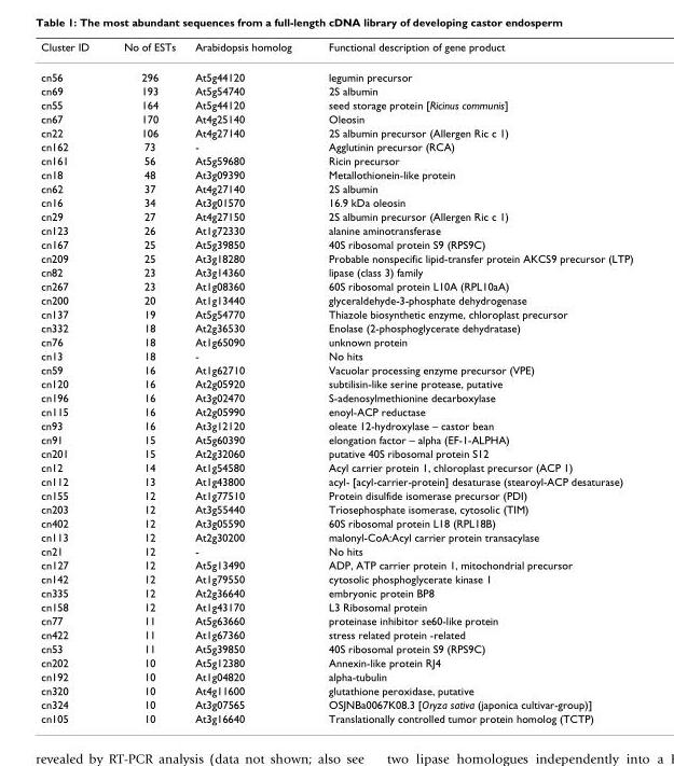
<table><thead><tr><td>Cluster ID</td><td>No of ESTs</td><td>Arabidopsis homolog</td><td>Functional description of gene product</td></tr></thead><tbody><tr><td>cn56</td><td>296</td><td>At5g44120</td><td>legumin precursor</td></tr><tr><td>cn69</td><td>193</td><td>At5g54740</td><td>2S albumin</td></tr><tr><td>cn55</td><td>164</td><td>At5g44120</td><td>seed storage protein [Ricinus communis]</td></tr><tr><td>cn67</td><td>170</td><td>At4g25140</td><td>Oleosin</td></tr><tr><td>cn22</td><td>106</td><td>At4g27140</td><td>2S albumin precursor (Allergen Ric c 1)</td></tr><tr><td>cn162</td><td>73</td><td>-</td><td>Agglutinin precursor (RCA)</td></tr><tr><td>cn161</td><td>56</td><td>At5g59680</td><td>Ricin precursor</td></tr><tr><td>cn18</td><td>48</td><td>At3g09390</td><td>Metallothionein-like protein</td></tr><tr><td>cn62</td><td>37</td><td>At4g27140</td><td>2S albumin</td></tr><tr><td>cn16</td><td>34</td><td>At3g01570</td><td>16.9 kDa oleosin</td></tr><tr><td>cn29</td><td>27</td><td>At4g27150</td><td>2S albumin precursor (Allergen Ric c 1)</td></tr><tr><td>cn123</td><td>26</td><td>At1g72330</td><td>alanine aminotransferase</td></tr><tr><td>cn167</td><td>25</td><td>At5g39850</td><td>40S ribosomal protein S9 (RPS9C)</td></tr><tr><td>cn209</td><td>25</td><td>At3g18280</td><td>Probable nonspecific lipid-transfer protein AKCS9 precursor (LTP)</td></tr><tr><td>cn82</td><td>23</td><td>At3g14360</td><td>lipase (class 3) family</td></tr><tr><td>cn267</td><td>23</td><td>At1g08360</td><td>60S ribosomal protein L10A (RPL10aA)</td></tr><tr><td>cn200</td><td>20</td><td>At1g13440</td><td>glyceraldehyde-3-phosphate dehydrogenase</td></tr><tr><td>cn137</td><td>19</td><td>At5g54770</td><td>Thiazole biosynthetic enzyme, chloroplast precursor</td></tr><tr><td>cn332</td><td>18</td><td>At2g36530</td><td>Enolase (2-phosphoglycerate dehydratase)</td></tr><tr><td>cn76</td><td>18</td><td>At1g65090</td><td>unknown protein</td></tr><tr><td>cn13</td><td>18</td><td>-</td><td>No hits</td></tr><tr><td>cn59</td><td>16</td><td>At1g62710</td><td>Vacuolar processing enzyme precursor (VPE)</td></tr><tr><td>cn120</td><td>16</td><td>At2g05920</td><td>subtilisin-like serine protease, putative</td></tr><tr><td>cn196</td><td>16</td><td>At3g02470</td><td>S-adenosylmethionine decarboxylase</td></tr><tr><td>cn115</td><td>16</td><td>At2g05990</td><td>enoyl-ACP reductase</td></tr><tr><td>cn93</td><td>16</td><td>At3g12120</td><td>oleate 12-hydroxylase – castor bean</td></tr><tr><td>cn91</td><td>15</td><td>At5g60390</td><td>elongation factor – alpha (EF-1-ALPHA)</td></tr><tr><td>cn201</td><td>15</td><td>At2g32060</td><td>putative 40S ribosomal protein S12</td></tr><tr><td>cn12</td><td>14</td><td>At1g54580</td><td>Acyl carrier protein 1, chloroplast precursor (ACP 1)</td></tr><tr><td>cn112</td><td>13</td><td>At1g43800</td><td>acyl- [acyl-carrier-protein] desaturase (stearoyl-ACP desaturase)</td></tr><tr><td>cn155</td><td>12</td><td>At1g77510</td><td>Protein disulfide isomerase precursor (PDI)</td></tr><tr><td>cn203</td><td>12</td><td>At3g55440</td><td>Triosephosphate isomerase, cytosolic (TIM)</td></tr><tr><td>cn402</td><td>12</td><td>At3g05590</td><td>60S ribosomal protein L18 (RPL18B)</td></tr><tr><td>cn113</td><td>12</td><td>At2g30200</td><td>malonyl-CoA:Acyl carrier protein transacylase</td></tr><tr><td>cn21</td><td>12</td><td>-</td><td>No hits</td></tr><tr><td>cn127</td><td>12</td><td>At5g13490</td><td>ADP, ATP carrier protein 1, mitochondrial precursor</td></tr><tr><td>cn142</td><td>12</td><td>At1g79550</td><td>cytosolic phosphoglycerate kinase 1</td></tr><tr><td>cn335</td><td>12</td><td>At2g36640</td><td>embryonic protein BP8</td></tr><tr><td>cn158</td><td>12</td><td>At1g43170</td><td>L3 Ribosomal protein</td></tr><tr><td>cn77</td><td>11</td><td>At5g63660</td><td>proteinase inhibitor se60-like protein</td></tr><tr><td>cn422</td><td>11</td><td>At1g67360</td><td>stress related protein -related</td></tr><tr><td>cn53</td><td>11</td><td>At5g39850</td><td>40S ribosomal protein S9 (RPS9C)</td></tr><tr><td>cn202</td><td>10</td><td>At5g12380</td><td>Annexin-like protein RJ4</td></tr><tr><td>cn192</td><td>10</td><td>At1g04820</td><td>alpha-tubulin</td></tr><tr><td>cn320</td><td>10</td><td>At4g11600</td><td>glutathione peroxidase, putative</td></tr><tr><td>cn324</td><td>10</td><td>At3g07565</td><td>OSJNBa0067K08.3 [Oryza sativa (japonica cultivar-group)]</td></tr><tr><td>cn105</td><td>10</td><td>At3g16640</td><td>Translationally controlled tumor protein homolog (TCTP)</td></tr></tbody></table>